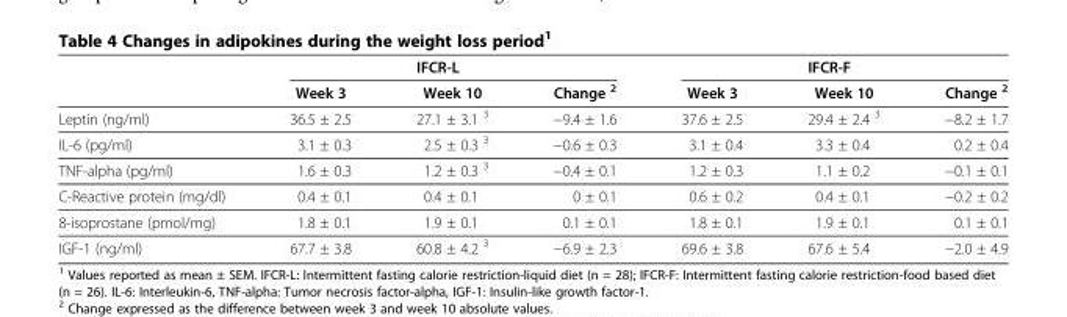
<table><thead><tr><td rowspan="2"></td><td rowspan="2">Week 3</td><td rowspan="2">IFCR-L Week 10</td><td rowspan="2">Change <sup>2</sup></td><td rowspan="2">Week 3</td><td rowspan="2">IFCR-F Week 10</td><td rowspan="2">Change <sup>2</sup></td></tr><tr></tr></thead><tbody><tr><td>Leptin (ng/ml)</td><td>36.5 ± 2.5</td><td>27.1 ± 3.1 <sup>3</sup></td><td>−9.4 ± 1.6</td><td>37.6 ± 2.5</td><td>29.4 ± 2.4 <sup>3</sup></td><td>−8.2 ± 1.7</td></tr><tr><td>IL-6 (pg/ml)</td><td>3.1 ± 0.3</td><td>2.5 ± 0.3 <sup>3</sup></td><td>−0.6 ± 0.3</td><td>3.1 ± 0.4</td><td>3.3 ± 0.4</td><td>0.2 ± 0.4</td></tr><tr><td>TNF-alpha (pg/ml)</td><td>1.6 ± 0.3</td><td>1.2 ± 0.3 <sup>3</sup></td><td>−0.4 ± 0.1</td><td>1.2 ± 0.3</td><td>1.1 ± 0.2</td><td>−0.1 ± 0.1</td></tr><tr><td>C-Reactive protein (mg/dl)</td><td>0.4 ± 0.1</td><td>0.4 ± 0.1</td><td>0 ± 0.1</td><td>0.6 ± 0.2</td><td>0.4 ± 0.1</td><td>−0.2 ± 0.2</td></tr><tr><td>8-isoprostane (pmol/mg)</td><td>1.8 ± 0.1</td><td>1.9 ± 0.1</td><td>0.1 ± 0.1</td><td>1.8 ± 0.1</td><td>1.9 ± 0.1</td><td>0.1 ± 0.1</td></tr><tr><td>IGF-1 (ng/ml)</td><td>67.7 ± 3.8</td><td>60.8 ± 4.2 <sup>3</sup></td><td>−6.9 ± 2.3</td><td>69.6 ± 3.8</td><td>67.6 ± 5.4</td><td>−2.0 ± 4.9</td></tr></tbody></table>